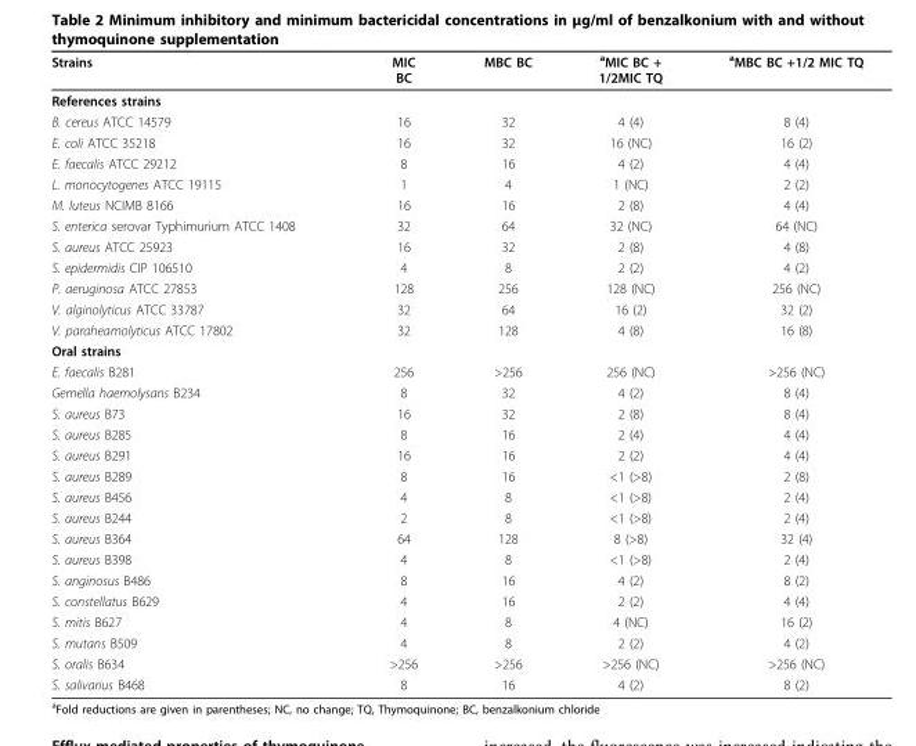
<table><thead><tr><td>Strains</td><td>MIC BC</td><td>MBC BC</td><td><sup>a</sup>MIC BC + 1/2MIC TQ</td><td><sup>a</sup>MBC BC +1/2 MIC TQ</td></tr></thead><tbody><tr><td colspan="5">References strains</td></tr><tr><td>B. cereus ATCC 14579</td><td>16</td><td>32</td><td>4 (4)</td><td>8 (4)</td></tr><tr><td>E. coli ATCC 35218</td><td>16</td><td>32</td><td>16 (NC)</td><td>16 (2)</td></tr><tr><td>E. faecalis ATCC 29212</td><td>8</td><td>16</td><td>4 (2)</td><td>4 (4)</td></tr><tr><td>L. monocytogenes ATCC 19115</td><td>1</td><td>4</td><td>1 (NC)</td><td>2 (2)</td></tr><tr><td>M. luteus NCIMB 8166</td><td>16</td><td>16</td><td>2 (8)</td><td>4 (4)</td></tr><tr><td>S. enterica serovar Typhimurium ATCC 1408</td><td>32</td><td>64</td><td>32 (NC)</td><td>64 (NC)</td></tr><tr><td>S. aureus ATCC 25923</td><td>16</td><td>32</td><td>2 (8)</td><td>4 (8)</td></tr><tr><td>S. epidermidis CIP 106510</td><td>4</td><td>8</td><td>2 (2)</td><td>4 (2)</td></tr><tr><td>P. aeruginosa ATCC 27853</td><td>128</td><td>256</td><td>128 (NC)</td><td>256 (NC)</td></tr><tr><td>V. alginolyticus ATCC 33787</td><td>32</td><td>64</td><td>16 (2)</td><td>32 (2)</td></tr><tr><td>V. paraheamolyticus ATCC 17802</td><td>32</td><td>128</td><td>4 (8)</td><td>16 (8)</td></tr><tr><td colspan="5">Oral strains</td></tr><tr><td>E. faecalis B281</td><td>256</td><td>&gt;256</td><td>256 (NC)</td><td>&gt;256 (NC)</td></tr><tr><td>Gemella haemolysans B234</td><td>8</td><td>32</td><td>4 (2)</td><td>8 (4)</td></tr><tr><td>S. aureus B73</td><td>16</td><td>32</td><td>2 (8)</td><td>8 (4)</td></tr><tr><td>S. aureus B285</td><td>8</td><td>16</td><td>2 (4)</td><td>4 (4)</td></tr><tr><td>S. aureus B291</td><td>16</td><td>16</td><td>2 (2)</td><td>4 (4)</td></tr><tr><td>S. aureus B289</td><td>8</td><td>16</td><td>&lt;1 (&gt;8)</td><td>2 (8)</td></tr><tr><td>S. aureus B456</td><td>4</td><td>8</td><td>&lt;1 (&gt;8)</td><td>2 (4)</td></tr><tr><td>S. aureus B244</td><td>2</td><td>8</td><td>&lt;1 (&gt;8)</td><td>2 (4)</td></tr><tr><td>S. aureus B364</td><td>64</td><td>128</td><td>8 (&gt;8)</td><td>32 (4)</td></tr><tr><td>S. aureus B398</td><td>4</td><td>8</td><td>&lt;1 (&gt;8)</td><td>2 (4)</td></tr><tr><td>S. anginosus B486</td><td>8</td><td>16</td><td>4 (2)</td><td>8 (2)</td></tr><tr><td>S. constellatus B629</td><td>4</td><td>16</td><td>2 (2)</td><td>4 (4)</td></tr><tr><td>S. mitis B627</td><td>4</td><td>8</td><td>4 (NC)</td><td>16 (2)</td></tr><tr><td>S. mutans B509</td><td>4</td><td>8</td><td>2 (2)</td><td>4 (2)</td></tr><tr><td>S. oralis B634</td><td>&gt;256</td><td>&gt;256</td><td>&gt;256 (NC)</td><td>&gt;256 (NC)</td></tr><tr><td>S. salivarius B468</td><td>8</td><td>16</td><td>4 (2)</td><td>8 (2)</td></tr></tbody></table>